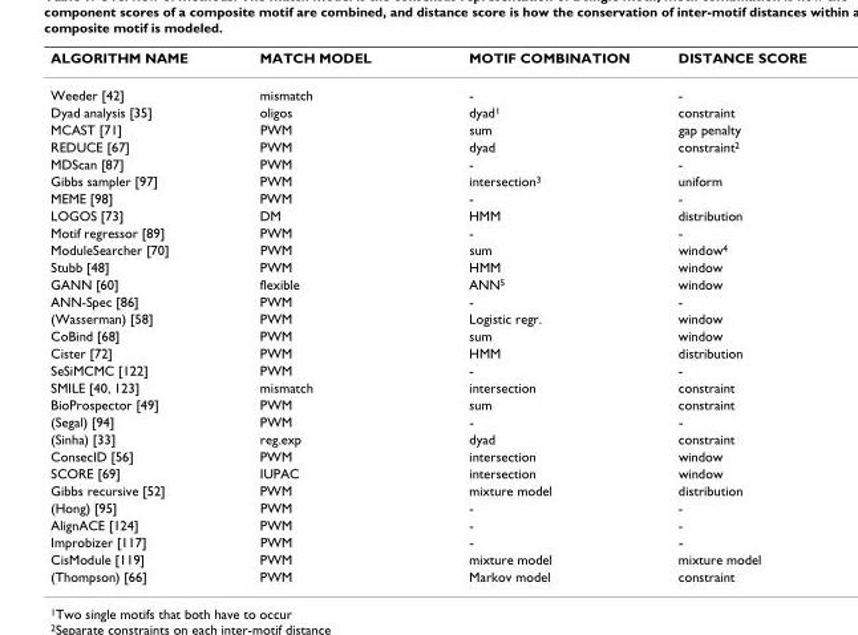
<table><thead><tr><td>ALGORITHM NAME</td><td>MATCH MODEL</td><td>MOTIF COMBINATION</td><td>DISTANCE SCORE</td></tr></thead><tbody><tr><td>Weeder [42]</td><td>mismatch</td><td>-</td><td>-</td></tr><tr><td>Dyad analysis [35]</td><td>oligos</td><td>dyad<sup>1</sup></td><td>constraint</td></tr><tr><td>MCAST [71]</td><td>PWM</td><td>sum</td><td>gap penalty</td></tr><tr><td>REDUCE [67]</td><td>PWM</td><td>dyad</td><td>constraint<sup>2</sup></td></tr><tr><td>MDScan [87]</td><td>PWM</td><td>-</td><td>-</td></tr><tr><td>Gibbs sampler [97]</td><td>PWM</td><td>intersection<sup>3</sup></td><td>uniform</td></tr><tr><td>MEME [98]</td><td>PWM</td><td>-</td><td>-</td></tr><tr><td>LOGOS [73]</td><td>DM</td><td>HMM</td><td>distribution</td></tr><tr><td>Motif regressor [89]</td><td>PWM</td><td>-</td><td>-</td></tr><tr><td>ModuleSearcher [70]</td><td>PWM</td><td>sum</td><td>window<sup>4</sup></td></tr><tr><td>Stubb [48]</td><td>PWM</td><td>HMM</td><td>window</td></tr><tr><td>GANN [60]</td><td>flexible</td><td>ANN<sup>5</sup></td><td>window</td></tr><tr><td>ANN-Spec [86]</td><td>PWM</td><td>-</td><td>-</td></tr><tr><td>(Wasserman) [58]</td><td>PWM</td><td>Logistic regr.</td><td>window</td></tr><tr><td>CoBind [68]</td><td>PWM</td><td>sum</td><td>window</td></tr><tr><td>Cister [72]</td><td>PWM</td><td>HMM</td><td>distribution</td></tr><tr><td>SeSiMCMC [122]</td><td>PWM</td><td>-</td><td>-</td></tr><tr><td>SMILE [40, 123]</td><td>mismatch</td><td>intersection</td><td>constraint</td></tr><tr><td>BioProspector [49]</td><td>PWM</td><td>sum</td><td>constraint</td></tr><tr><td>(Segal) [94]</td><td>PWM</td><td>-</td><td>-</td></tr><tr><td>(Sinha) [33]</td><td>reg.exp</td><td>dyad</td><td>constraint</td></tr><tr><td>ConsecID [56]</td><td>PWM</td><td>intersection</td><td>window</td></tr><tr><td>SCORE [69]</td><td>IUPAC</td><td>intersection</td><td>window</td></tr><tr><td>Gibbs recursive [52]</td><td>PWM</td><td>mixture model</td><td>distribution</td></tr><tr><td>(Hong) [95]</td><td>PWM</td><td>-</td><td>-</td></tr><tr><td>AlignACE [124]</td><td>PWM</td><td>-</td><td>-</td></tr><tr><td>Improbizer [117]</td><td>PWM</td><td>-</td><td>-</td></tr><tr><td>CisModule [119]</td><td>PWM</td><td>mixture model</td><td>mixture model</td></tr><tr><td>(Thompson) [66]</td><td>PWM</td><td>Markov model</td><td>constraint</td></tr></tbody></table>